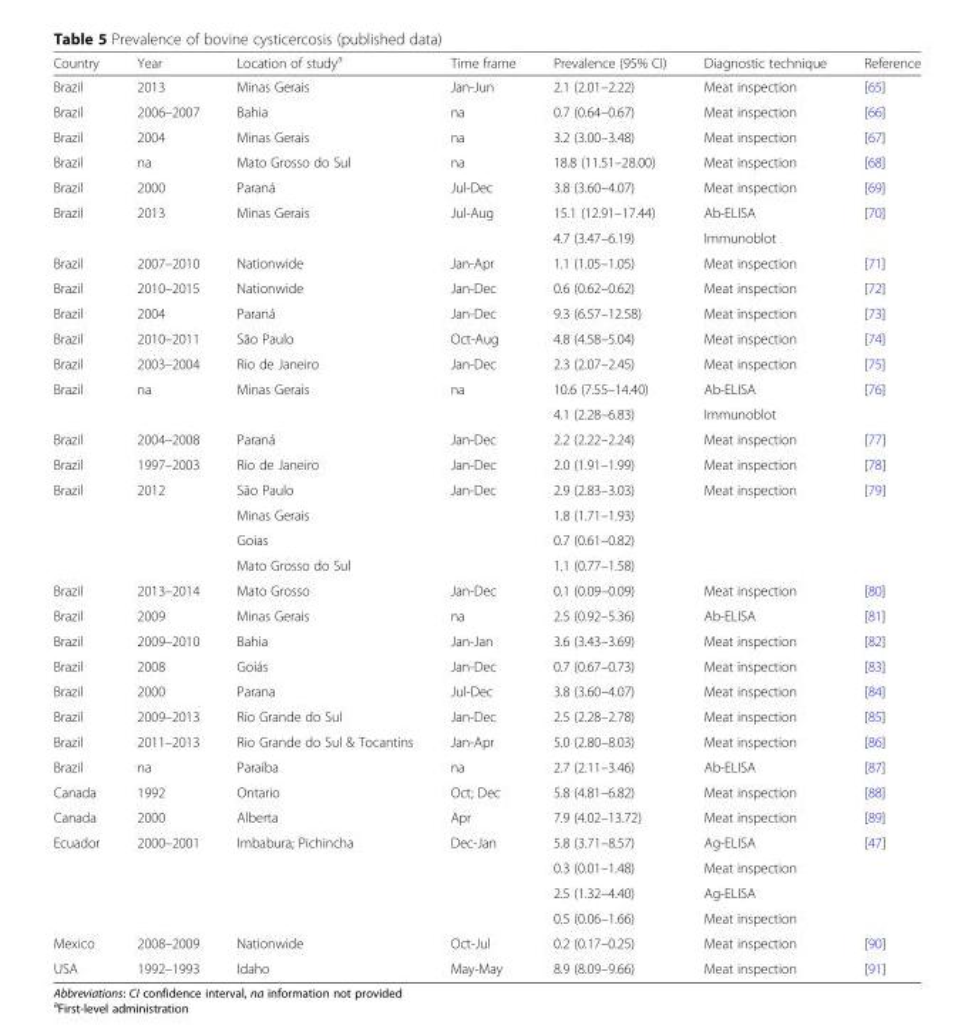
<table><thead><tr><td>Country</td><td>Year</td><td>Location of study<sup>a</sup></td><td>Time frame</td><td>Prevalence (95% CI)</td><td>Diagnostic technique</td><td>Reference</td></tr></thead><tbody><tr><td>Brazil</td><td>2013</td><td>Minas Gerais</td><td>Jan-Jun</td><td>2.1 (2.01–2.22)</td><td>Meat inspection</td><td>[65]</td></tr><tr><td>Brazil</td><td>2006–2007</td><td>Bahia</td><td>na</td><td>0.7 (0.64–0.67)</td><td>Meat inspection</td><td>[66]</td></tr><tr><td>Brazil</td><td>2004</td><td>Minas Gerais</td><td>na</td><td>3.2 (3.00–3.48)</td><td>Meat inspection</td><td>[67]</td></tr><tr><td>Brazil</td><td>na</td><td>Mato Grosso do Sul</td><td>na</td><td>18.8 (11.51–28.00)</td><td>Meat inspection</td><td>[68]</td></tr><tr><td>Brazil</td><td>2000</td><td>Paraná</td><td>Jul-Dec</td><td>3.8 (3.60–4.07)</td><td>Meat inspection</td><td>[69]</td></tr><tr><td rowspan="2">Brazil</td><td rowspan="2">2013</td><td rowspan="2">Minas Gerais</td><td rowspan="2">Jul-Aug</td><td>15.1 (12.91–17.44)</td><td>Ab-ELISA</td><td rowspan="2">[70]</td></tr><tr><td>4.7 (3.47–6.19)</td><td>Immunoblot</td></tr><tr><td>Brazil</td><td>2007–2010</td><td>Nationwide</td><td>Jan-Apr</td><td>1.1 (1.05–1.05)</td><td>Meat inspection</td><td>[71]</td></tr><tr><td>Brazil</td><td>2010–2015</td><td>Nationwide</td><td>Jan-Dec</td><td>0.6 (0.62–0.62)</td><td>Meat inspection</td><td>[72]</td></tr><tr><td>Brazil</td><td>2004</td><td>Paraná</td><td>Jan-Dec</td><td>9.3 (6.57–12.58)</td><td>Meat inspection</td><td>[73]</td></tr><tr><td>Brazil</td><td>2010–2011</td><td>São Paulo</td><td>Oct-Aug</td><td>4.8 (4.58–5.04)</td><td>Meat inspection</td><td>[74]</td></tr><tr><td>Brazil</td><td>2003–2004</td><td>Rio de Janeiro</td><td>Jan-Dec</td><td>2.3 (2.07–2.45)</td><td>Meat inspection</td><td>[75]</td></tr><tr><td rowspan="2">Brazil</td><td rowspan="2">na</td><td rowspan="2">Minas Gerais</td><td rowspan="2">na</td><td>10.6 (7.55–14.40)</td><td>Ab-ELISA</td><td rowspan="2">[76]</td></tr><tr><td>4.1 (2.28–6.83)</td><td>Immunoblot</td></tr><tr><td>Brazil</td><td>2004–2008</td><td>Paraná</td><td>Jan-Dec</td><td>2.2 (2.22–2.24)</td><td>Meat inspection</td><td>[77]</td></tr><tr><td>Brazil</td><td>1997–2003</td><td>Rio de Janeiro</td><td>Jan-Dec</td><td>2.0 (1.91–1.99)</td><td>Meat inspection</td><td>[78]</td></tr><tr><td rowspan="4">Brazil</td><td rowspan="4">2012</td><td>São Paulo</td><td rowspan="4">Jan-Dec</td><td>2.9 (2.83–3.03)</td><td rowspan="4">Meat inspection</td><td rowspan="4">[79]</td></tr><tr><td>Minas Gerais</td><td>1.8 (1.71–1.93)</td></tr><tr><td>Goias</td><td>0.7 (0.61–0.82)</td></tr><tr><td>Mato Grosso do Sul</td><td>1.1 (0.77–1.58)</td></tr><tr><td>Brazil</td><td>2013–2014</td><td>Mato Grosso</td><td>Jan-Dec</td><td>0.1 (0.09–0.09)</td><td>Meat inspection</td><td>[80]</td></tr><tr><td>Brazil</td><td>2009</td><td>Minas Gerais</td><td>na</td><td>2.5 (0.92–5.36)</td><td>Ab-ELISA</td><td>[81]</td></tr><tr><td>Brazil</td><td>2009–2010</td><td>Bahia</td><td>Jan-Jan</td><td>3.6 (3.43–3.69)</td><td>Meat inspection</td><td>[82]</td></tr><tr><td>Brazil</td><td>2008</td><td>Goiás</td><td>Jan-Dec</td><td>0.7 (0.67–0.73)</td><td>Meat inspection</td><td>[83]</td></tr><tr><td>Brazil</td><td>2000</td><td>Parana</td><td>Jul-Dec</td><td>3.8 (3.60–4.07)</td><td>Meat inspection</td><td>[84]</td></tr><tr><td>Brazil</td><td>2009–2013</td><td>Rio Grande do Sul</td><td>Jan-Dec</td><td>2.5 (2.28–2.78)</td><td>Meat inspection</td><td>[85]</td></tr><tr><td>Brazil</td><td>2011–2013</td><td>Rio Grande do Sul &amp; Tocantins</td><td>Jan-Apr</td><td>5.0 (2.80–8.03)</td><td>Meat inspection</td><td>[86]</td></tr><tr><td>Brazil</td><td>na</td><td>Paraíba</td><td>na</td><td>2.7 (2.11–3.46)</td><td>Ab-ELISA</td><td>[87]</td></tr><tr><td>Canada</td><td>1992</td><td>Ontario</td><td>Oct; Dec</td><td>5.8 (4.81–6.82)</td><td>Meat inspection</td><td>[88]</td></tr><tr><td>Canada</td><td>2000</td><td>Alberta</td><td>Apr</td><td>7.9 (4.02–13.72)</td><td>Meat inspection</td><td>[89]</td></tr><tr><td rowspan="4">Ecuador</td><td rowspan="4">2000–2001</td><td rowspan="4">Imbabura; Pichincha</td><td rowspan="4">Dec-Jan</td><td>5.8 (3.71–8.57)</td><td>Ag-ELISA</td><td rowspan="4">[47]</td></tr><tr><td>0.3 (0.01–1.48)</td><td>Meat inspection</td></tr><tr><td>2.5 (1.32–4.40)</td><td>Ag-ELISA</td></tr><tr><td>0.5 (0.06–1.66)</td><td>Meat inspection</td></tr><tr><td>Mexico</td><td>2008–2009</td><td>Nationwide</td><td>Oct-Jul</td><td>0.2 (0.17–0.25)</td><td>Meat inspection</td><td>[90]</td></tr><tr><td>USA</td><td>1992–1993</td><td>Idaho</td><td>May-May</td><td>8.9 (8.09–9.66)</td><td>Meat inspection</td><td>[91]</td></tr></tbody></table>